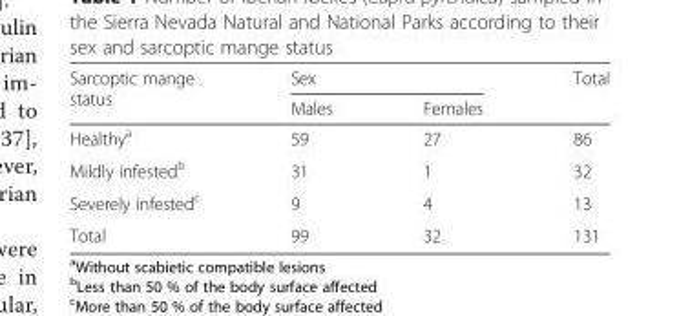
<table><thead><tr><td rowspan="2">Sarcoptic mange status</td><td colspan="2">Sex</td><td rowspan="2">Total</td></tr><tr><td>Males</td><td>Females</td></tr></thead><tbody><tr><td>Healthy<sup>a</sup></td><td>59</td><td>27</td><td>86</td></tr><tr><td>Mildly infested<sup>b</sup></td><td>31</td><td>1</td><td>32</td></tr><tr><td>Severely infested<sup>c</sup></td><td>9</td><td>4</td><td>13</td></tr><tr><td>Total</td><td>99</td><td>32</td><td>131</td></tr></tbody></table>